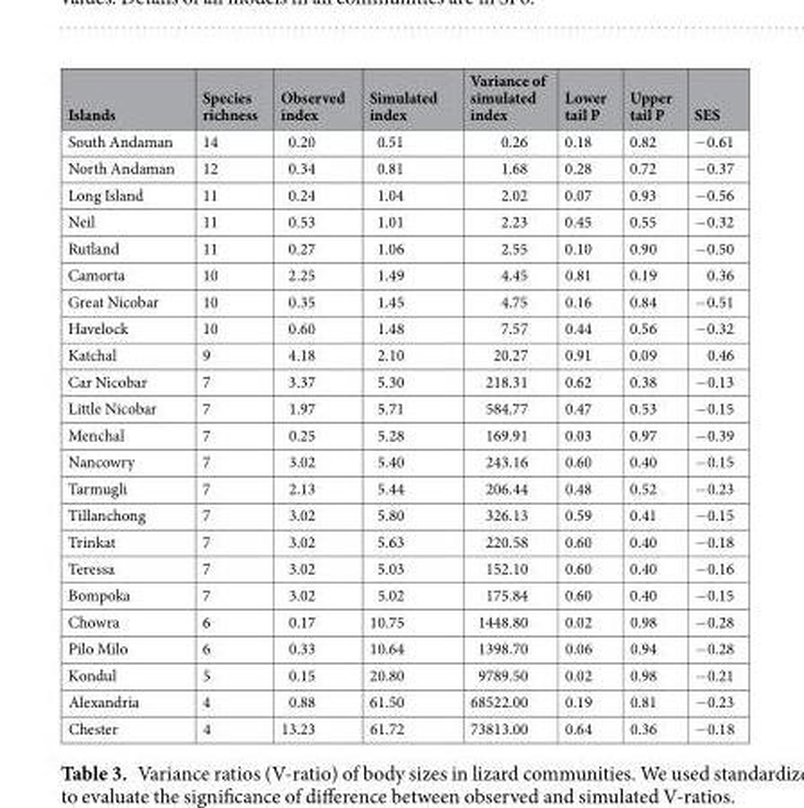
<table><thead><tr><td>Islands</td><td>Species richness</td><td>Observed index</td><td>Simulated index</td><td>Variance of simulated index</td><td>Lower tail P</td><td>Upper tail P</td><td>SES</td></tr></thead><tbody><tr><td>South Andaman</td><td>14</td><td>0.20</td><td>0.51</td><td>0.26</td><td>0.18</td><td>0.82</td><td>−0.61</td></tr><tr><td>North Andaman</td><td>12</td><td>0.34</td><td>0.81</td><td>1.68</td><td>0.28</td><td>0.72</td><td>−0.37</td></tr><tr><td>Long Island</td><td>11</td><td>0.24</td><td>1.04</td><td>2.02</td><td>0.07</td><td>0.93</td><td>−0.56</td></tr><tr><td>Neil</td><td>11</td><td>0.53</td><td>1.01</td><td>2.23</td><td>0.45</td><td>0.55</td><td>−0.32</td></tr><tr><td>Rutland</td><td>11</td><td>0.27</td><td>1.06</td><td>2.55</td><td>0.10</td><td>0.90</td><td>−0.50</td></tr><tr><td>Camorta</td><td>10</td><td>2.25</td><td>1.49</td><td>4.45</td><td>0.81</td><td>0.19</td><td>0.36</td></tr><tr><td>Great Nicobar</td><td>10</td><td>0.35</td><td>1.45</td><td>4.75</td><td>0.16</td><td>0.84</td><td>−0.51</td></tr><tr><td>Havelock</td><td>10</td><td>0.60</td><td>1.48</td><td>7.57</td><td>0.44</td><td>0.56</td><td>−0.32</td></tr><tr><td>Katchal</td><td>9</td><td>4.18</td><td>2.10</td><td>20.27</td><td>0.91</td><td>0.09</td><td>0.46</td></tr><tr><td>Car Nicobar</td><td>7</td><td>3.37</td><td>5.30</td><td>218.31</td><td>0.62</td><td>0.38</td><td>−0.13</td></tr><tr><td>Little Nicobar</td><td>7</td><td>1.97</td><td>5.71</td><td>584.77</td><td>0.47</td><td>0.53</td><td>−0.15</td></tr><tr><td>Menchal</td><td>7</td><td>0.25</td><td>5.28</td><td>169.91</td><td>0.03</td><td>0.97</td><td>−0.39</td></tr><tr><td>Nancowry</td><td>7</td><td>3.02</td><td>5.40</td><td>243.16</td><td>0.60</td><td>0.40</td><td>−0.15</td></tr><tr><td>Tarmugli</td><td>7</td><td>2.13</td><td>5.44</td><td>206.44</td><td>0.48</td><td>0.52</td><td>−0.23</td></tr><tr><td>Tillanchong</td><td>7</td><td>3.02</td><td>5.80</td><td>326.13</td><td>0.59</td><td>0.41</td><td>−0.15</td></tr><tr><td>Trinkat</td><td>7</td><td>3.02</td><td>5.63</td><td>220.58</td><td>0.60</td><td>0.40</td><td>−0.18</td></tr><tr><td>Teressa</td><td>7</td><td>3.02</td><td>5.03</td><td>152.10</td><td>0.60</td><td>0.40</td><td>−0.16</td></tr><tr><td>Bompoka</td><td>7</td><td>3.02</td><td>5.02</td><td>175.84</td><td>0.60</td><td>0.40</td><td>−0.15</td></tr><tr><td>Chowra</td><td>6</td><td>0.17</td><td>10.75</td><td>1448.80</td><td>0.02</td><td>0.98</td><td>−0.28</td></tr><tr><td>Pilo Milo</td><td>6</td><td>0.33</td><td>10.64</td><td>1398.70</td><td>0.06</td><td>0.94</td><td>−0.28</td></tr><tr><td>Kondul</td><td>5</td><td>0.15</td><td>20.80</td><td>9789.50</td><td>0.02</td><td>0.98</td><td>−0.21</td></tr><tr><td>Alexandria</td><td>4</td><td>0.88</td><td>61.50</td><td>68522.00</td><td>0.19</td><td>0.81</td><td>−0.23</td></tr><tr><td>Chester</td><td>4</td><td>13.23</td><td>61.72</td><td>73813.00</td><td>0.64</td><td>0.36</td><td>−0.18</td></tr></tbody></table>